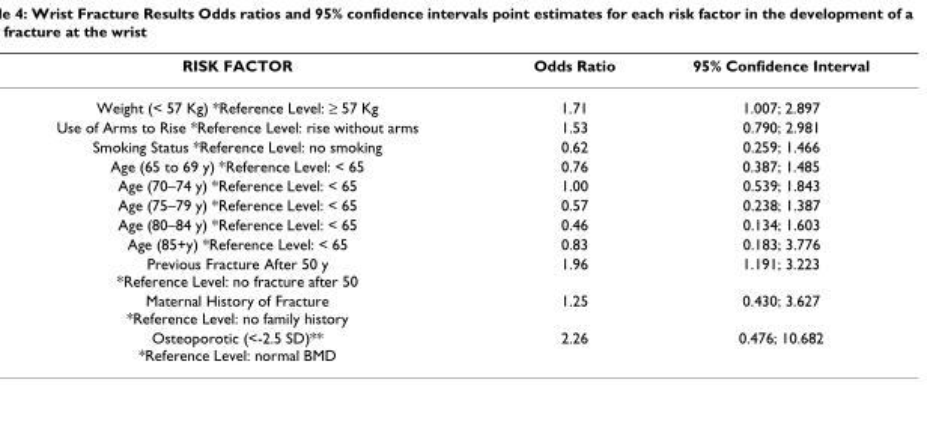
<table><thead><tr><td>RISK FACTOR</td><td>Odds Ratio</td><td>95% Confidence Interval</td></tr></thead><tbody><tr><td>Weight (&lt; 57 Kg) *Reference Level: ≥ 57 Kg</td><td>1.71</td><td>1.007; 2.897</td></tr><tr><td>Use of Arms to Rise *Reference Level: rise without arms</td><td>1.53</td><td>0.790; 2.981</td></tr><tr><td>Smoking Status *Reference Level: no smoking</td><td>0.62</td><td>0.259; 1.466</td></tr><tr><td>Age (65 to 69 y) *Reference Level: &lt; 65</td><td>0.76</td><td>0.387; 1.485</td></tr><tr><td>Age (70–74 y) *Reference Level: &lt; 65</td><td>1.00</td><td>0.539; 1.843</td></tr><tr><td>Age (75–79 y) *Reference Level: &lt; 65</td><td>0.57</td><td>0.238; 1.387</td></tr><tr><td>Age (80–84 y) *Reference Level: &lt; 65</td><td>0.46</td><td>0.134; 1.603</td></tr><tr><td>Age (85+y) *Reference Level: &lt; 65</td><td>0.83</td><td>0.183; 3.776</td></tr><tr><td>Previous Fracture After 50 y *Reference Level: no fracture after 50</td><td>1.96</td><td>1.191; 3.223</td></tr><tr><td>Maternal History of Fracture *Reference Level: no family history</td><td>1.25</td><td>0.430; 3.627</td></tr><tr><td>Osteoporotic (&lt;-2.5 SD)** *Reference Level: normal BMD</td><td>2.26</td><td>0.476; 10.682</td></tr></tbody></table>